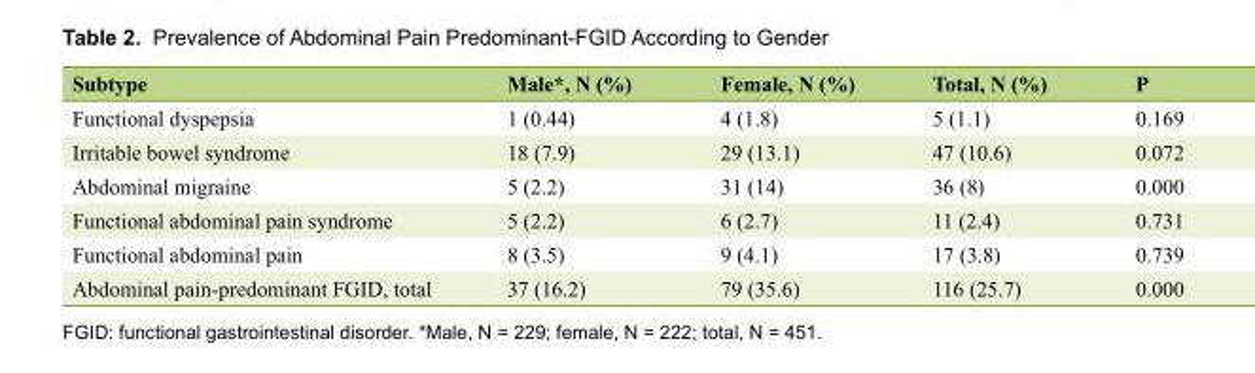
<table><thead><tr><td>Subtype</td><td>Male*, N (%)</td><td>Female, N (%)</td><td>Total, N (%)</td><td>P</td></tr></thead><tbody><tr><td>Functional dyspepsia</td><td>1 (0.44)</td><td>4 (1.8)</td><td>5 (1.1)</td><td>0.169</td></tr><tr><td>Irritable bowel syndrome</td><td>18 (7.9)</td><td>29 (13.1)</td><td>47 (10.6)</td><td>0.072</td></tr><tr><td>Abdominal migraine</td><td>5 (2.2)</td><td>31 (14)</td><td>36 (8)</td><td>0.000</td></tr><tr><td>Functional abdominal pain syndrome</td><td>5 (2.2)</td><td>6 (2.7)</td><td>11 (2.4)</td><td>0.731</td></tr><tr><td>Functional abdominal pain</td><td>8 (3.5)</td><td>9 (4.1)</td><td>17 (3.8)</td><td>0.739</td></tr><tr><td>Abdominal pain-predominant FGID, total</td><td>37 (16.2)</td><td>79 (35.6)</td><td>116 (25.7)</td><td>0.000</td></tr></tbody></table>